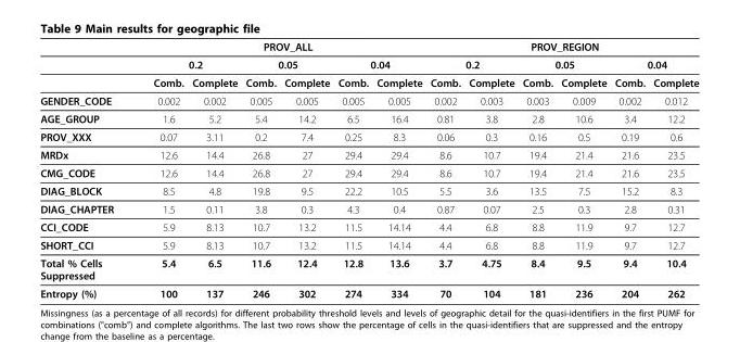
<table><thead><tr><td rowspan="3"></td><td colspan="6">PROV_ALL</td><td colspan="6">PROV_REGION</td></tr><tr><td colspan="2">0.2</td><td colspan="2">0.05</td><td colspan="2">0.04</td><td colspan="2">0.2</td><td colspan="2">0.05</td><td colspan="2">0.04</td></tr><tr><td>Comb.</td><td>Complete</td><td>Comb.</td><td>Complete</td><td>Comb.</td><td>Complete</td><td>Comb.</td><td>Complete</td><td>Comb.</td><td>Complete</td><td>Comb.</td><td>Complete</td></tr></thead><tbody><tr><td>GENDER_CODE</td><td>0.002</td><td>0.002</td><td>0.005</td><td>0.005</td><td>0.005</td><td>0.005</td><td>0.002</td><td>0.003</td><td>0.003</td><td>0.009</td><td>0.002</td><td>0.012</td></tr><tr><td>AGE_GROUP</td><td>1.6</td><td>5.2</td><td>5.4</td><td>14.2</td><td>6.5</td><td>16.4</td><td>0.81</td><td>3.8</td><td>2.8</td><td>10.6</td><td>3.4</td><td>12.2</td></tr><tr><td>PROV_XXX</td><td>0.07</td><td>3.11</td><td>0.2</td><td>7.4</td><td>0.25</td><td>8.3</td><td>0.06</td><td>0.3</td><td>0.16</td><td>0.5</td><td>0.19</td><td>0.6</td></tr><tr><td>MRDx</td><td>12.6</td><td>14.4</td><td>26.8</td><td>27</td><td>29.4</td><td>29.4</td><td>8.6</td><td>10.7</td><td>19.4</td><td>21.4</td><td>21.6</td><td>23.5</td></tr><tr><td>CMG_CODE</td><td>12.6</td><td>14.4</td><td>26.8</td><td>27</td><td>29.4</td><td>29.4</td><td>8.6</td><td>10.7</td><td>19.4</td><td>21.4</td><td>21.6</td><td>23.5</td></tr><tr><td>DIAG_BLOCK</td><td>8.5</td><td>4.8</td><td>19.8</td><td>9.5</td><td>22.2</td><td>10.5</td><td>5.5</td><td>3.6</td><td>13.5</td><td>7.5</td><td>15.2</td><td>8.3</td></tr><tr><td>DIAG_CHAPTER</td><td>1.5</td><td>0.11</td><td>3.8</td><td>0.3</td><td>4.3</td><td>0.4</td><td>0.87</td><td>0.07</td><td>2.5</td><td>0.3</td><td>2.8</td><td>0.31</td></tr><tr><td>CCI_CODE</td><td>5.9</td><td>8.13</td><td>10.7</td><td>13.2</td><td>11.5</td><td>14.14</td><td>4.4</td><td>6.8</td><td>8.8</td><td>11.9</td><td>9.7</td><td>12.7</td></tr><tr><td>SHORT_CCI</td><td>5.9</td><td>8.13</td><td>10.7</td><td>13.2</td><td>11.5</td><td>14.14</td><td>4.4</td><td>6.8</td><td>8.8</td><td>11.9</td><td>9.7</td><td>12.7</td></tr><tr><td>Total % Cells Suppressed</td><td>5.4</td><td>6.5</td><td>11.6</td><td>12.4</td><td>12.8</td><td>13.6</td><td>3.7</td><td>4.75</td><td>8.4</td><td>9.5</td><td>9.4</td><td>10.4</td></tr><tr><td>Entropy (%)</td><td>100</td><td>137</td><td>246</td><td>302</td><td>274</td><td>334</td><td>70</td><td>104</td><td>181</td><td>236</td><td>204</td><td>262</td></tr></tbody></table>